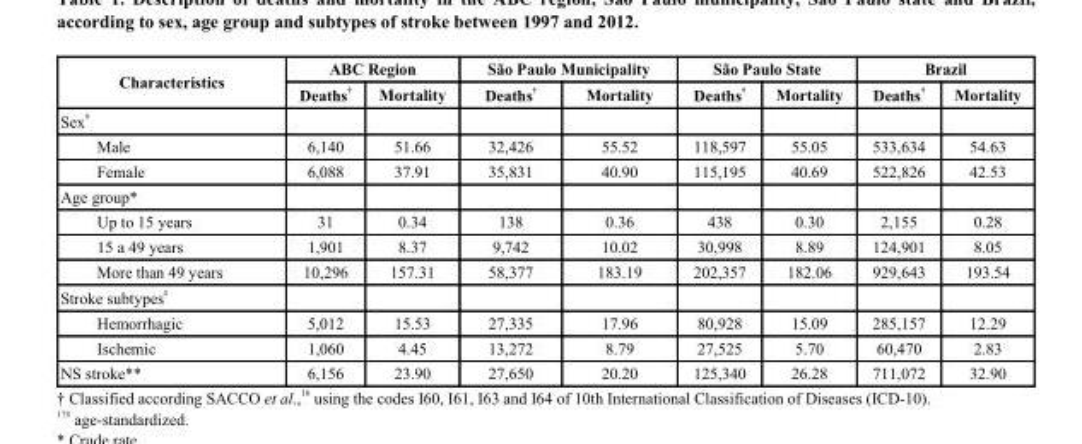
<table><thead><tr><td rowspan="2">Characteristics</td><td colspan="2">ABC Region</td><td colspan="2">São Paulo Municipality</td><td colspan="2">São Paulo State</td><td colspan="2">Brazil</td></tr><tr><td>Deaths <sup>†</sup></td><td>Mortality</td><td>Deaths <sup>†</sup></td><td>Mortality</td><td>Deaths <sup>†</sup></td><td>Mortality</td><td>Deaths <sup>†</sup></td><td>Mortality</td></tr></thead><tbody><tr><td colspan="9">Sex <sup>#</sup></td></tr><tr><td>Male</td><td>6,140</td><td>51.66</td><td>32,426</td><td>55.52</td><td>118,597</td><td>55.05</td><td>533,634</td><td>54.63</td></tr><tr><td>Female</td><td>6,088</td><td>37.91</td><td>35,831</td><td>40.90</td><td>115,195</td><td>40.69</td><td>522,826</td><td>42.53</td></tr><tr><td colspan="9">Age group*</td></tr><tr><td>Up to 15 years</td><td>31</td><td>0.34</td><td>138</td><td>0.36</td><td>438</td><td>0.30</td><td>2,155</td><td>0.28</td></tr><tr><td>15 a 49 years</td><td>1,901</td><td>8.37</td><td>9,742</td><td>10.02</td><td>30,998</td><td>8.89</td><td>124,901</td><td>8.05</td></tr><tr><td>More than 49 years</td><td>10,296</td><td>157.31</td><td>58,377</td><td>183.19</td><td>202,357</td><td>182.06</td><td>929,643</td><td>193.54</td></tr><tr><td colspan="9">Stroke subtypes <sup>#</sup></td></tr><tr><td>Hemorrhagic</td><td>5,012</td><td>15.53</td><td>27,335</td><td>17.96</td><td>80,928</td><td>15.09</td><td>285,157</td><td>12.29</td></tr><tr><td>Ischemic</td><td>1,060</td><td>4.45</td><td>13,272</td><td>8.79</td><td>27,525</td><td>5.70</td><td>60,470</td><td>2.83</td></tr><tr><td>NS stroke**</td><td>6,156</td><td>23.90</td><td>27,650</td><td>20.20</td><td>125,340</td><td>26.28</td><td>711,072</td><td>32.90</td></tr></tbody></table>